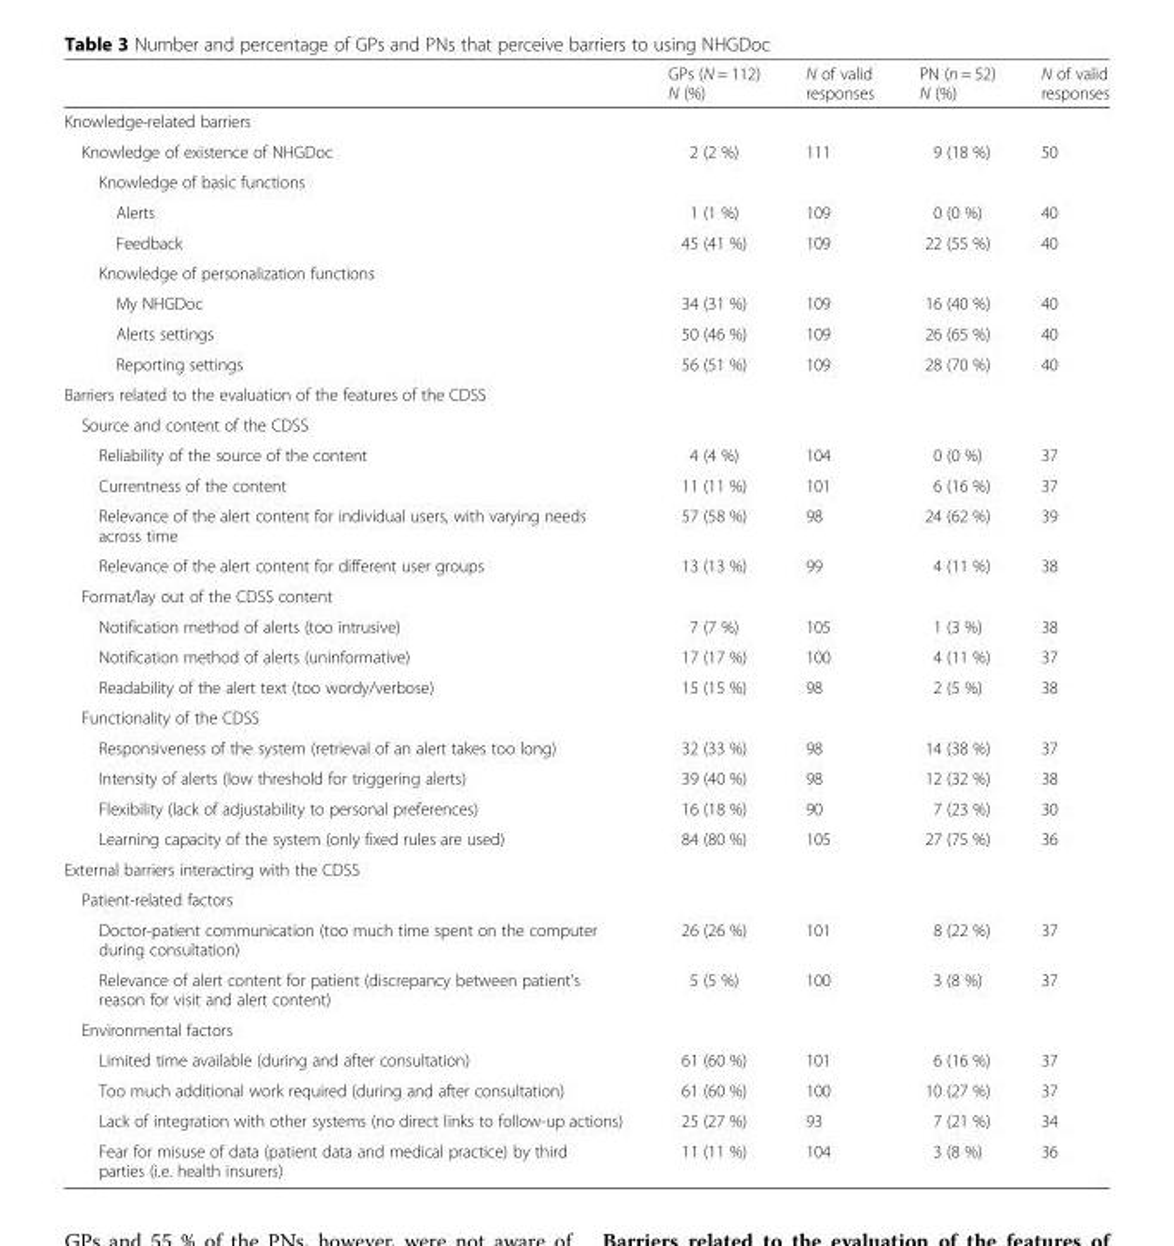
<table><thead><tr><td></td><td>GPs (N = 112) N (%)</td><td>N of valid responses</td><td>PN (n = 52) N (%)</td><td>N of valid responses</td></tr></thead><tbody><tr><td colspan="5">Knowledge-related barriers</td></tr><tr><td>Knowledge of existence of NHGDoc</td><td>2 (2 %)</td><td>111</td><td>9 (18 %)</td><td>50</td></tr><tr><td colspan="5">Knowledge of basic functions</td></tr><tr><td>Alerts</td><td>1 (1 %)</td><td>109</td><td>0 (0 %)</td><td>40</td></tr><tr><td>Feedback</td><td>45 (41 %)</td><td>109</td><td>22 (55 %)</td><td>40</td></tr><tr><td colspan="5">Knowledge of personalization functions</td></tr><tr><td>My NHGDoc</td><td>34 (31 %)</td><td>109</td><td>16 (40 %)</td><td>40</td></tr><tr><td>Alerts settings</td><td>50 (46 %)</td><td>109</td><td>26 (65 %)</td><td>40</td></tr><tr><td>Reporting settings</td><td>56 (51 %)</td><td>109</td><td>28 (70 %)</td><td>40</td></tr><tr><td colspan="5">Barriers related to the evaluation of the features of the CDSS</td></tr><tr><td colspan="5">Source and content of the CDSS</td></tr><tr><td>Reliability of the source of the content</td><td>4 (4 %)</td><td>104</td><td>0 (0 %)</td><td>37</td></tr><tr><td>Currentness of the content</td><td>11 (11 %)</td><td>101</td><td>6 (16 %)</td><td>37</td></tr><tr><td>Relevance of the alert content for individual users, with varying needs across time</td><td>57 (58 %)</td><td>98</td><td>24 (62 %)</td><td>39</td></tr><tr><td>Relevance of the alert content for different user groups</td><td>13 (13 %)</td><td>99</td><td>4 (11 %)</td><td>38</td></tr><tr><td colspan="5">Format/lay out of the CDSS content</td></tr><tr><td>Notification method of alerts (too intrusive)</td><td>7 (7 %)</td><td>105</td><td>1 (3 %)</td><td>38</td></tr><tr><td>Notification method of alerts (uninformative)</td><td>17 (17 %)</td><td>100</td><td>4 (11 %)</td><td>37</td></tr><tr><td>Readability of the alert text (too wordy/verbose)</td><td>15 (15 %)</td><td>98</td><td>2 (5 %)</td><td>38</td></tr><tr><td colspan="5">Functionality of the CDSS</td></tr><tr><td>Responsiveness of the system (retrieval of an alert takes too long)</td><td>32 (33 %)</td><td>98</td><td>14 (38 %)</td><td>37</td></tr><tr><td>Intensity of alerts (low threshold for triggering alerts)</td><td>39 (40 %)</td><td>98</td><td>12 (32 %)</td><td>38</td></tr><tr><td>Flexibility (lack of adjustability to personal preferences)</td><td>16 (18 %)</td><td>90</td><td>7 (23 %)</td><td>30</td></tr><tr><td>Learning capacity of the system (only fixed rules are used)</td><td>84 (80 %)</td><td>105</td><td>27 (75 %)</td><td>36</td></tr><tr><td colspan="5">External barriers interacting with the CDSS</td></tr><tr><td colspan="5">Patient-related factors</td></tr><tr><td>Doctor-patient communication (too much time spent on the computer during consultation)</td><td>26 (26 %)</td><td>101</td><td>8 (22 %)</td><td>37</td></tr><tr><td>Relevance of alert content for patient (discrepancy between patient’s reason for visit and alert content)</td><td>5 (5 %)</td><td>100</td><td>3 (8 %)</td><td>37</td></tr><tr><td colspan="5">Environmental factors</td></tr><tr><td>Limited time available (during and after consultation)</td><td>61 (60 %)</td><td>101</td><td>6 (16 %)</td><td>37</td></tr><tr><td>Too much additional work required (during and after consultation)</td><td>61 (60 %)</td><td>100</td><td>10 (27 %)</td><td>37</td></tr><tr><td>Lack of integration with other systems (no direct links to follow-up actions)</td><td>25 (27 %)</td><td>93</td><td>7 (21 %)</td><td>34</td></tr><tr><td>Fear for misuse of data (patient data and medical practice) by third parties (i.e. health insurers)</td><td>11 (11 %)</td><td>104</td><td>3 (8 %)</td><td>36</td></tr></tbody></table>